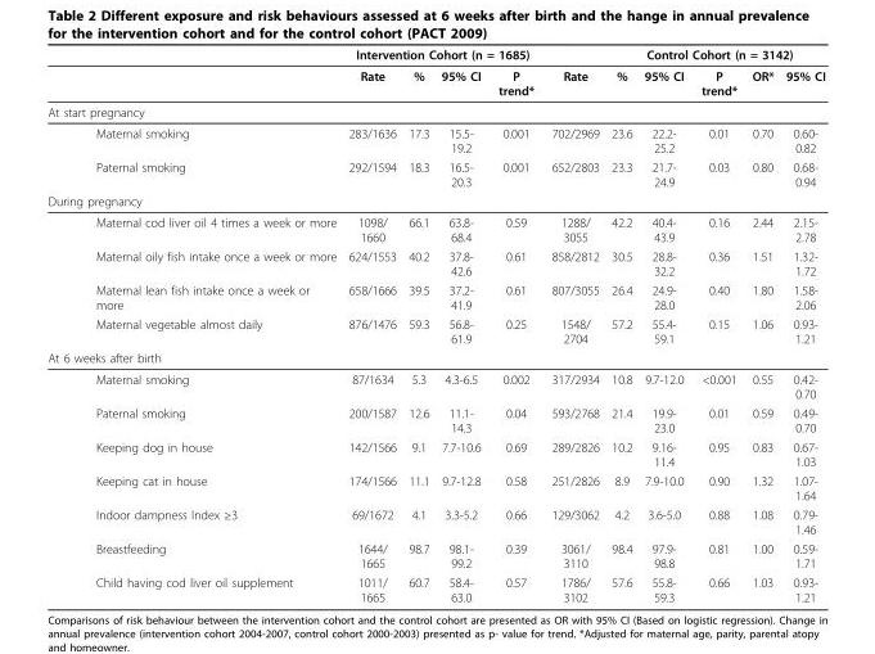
<table><thead><tr><td rowspan="2"></td><td colspan="4">Intervention Cohort (n = 1685)</td><td rowspan="2">Rate</td><td colspan="5">Control Cohort (n = 3142)</td></tr><tr><td>Rate</td><td>%</td><td>95% CI</td><td>P trend*</td><td>%</td><td>95% CI</td><td>P trend*</td><td>OR*</td><td>95% CI</td></tr></thead><tbody><tr><td colspan="11">At start pregnancy</td></tr><tr><td>Maternal smoking</td><td>283/1636</td><td>17.3</td><td>15.5- 19.2</td><td>0.001</td><td>702/2969</td><td>23.6</td><td>22.2- 25.2</td><td>0.01</td><td>0.70</td><td>0.60- 0.82</td></tr><tr><td>Paternal smoking</td><td>292/1594</td><td>18.3</td><td>16.5- 20.3</td><td>0.001</td><td>652/2803</td><td>23.3</td><td>21.7- 24.9</td><td>0.03</td><td>0.80</td><td>0.68- 0.94</td></tr><tr><td colspan="11">During pregnancy</td></tr><tr><td>Maternal cod liver oil 4 times a week or more</td><td>1098/ 1660</td><td>66.1</td><td>63.8- 68.4</td><td>0.59</td><td>1288/ 3055</td><td>42.2</td><td>40.4- 43.9</td><td>0.16</td><td>2.44</td><td>2.15- 2.78</td></tr><tr><td>Maternal oily fish intake once a week or more</td><td>624/1553</td><td>40.2</td><td>37.8- 42.6</td><td>0.61</td><td>858/2812</td><td>30.5</td><td>28.8- 32.2</td><td>0.36</td><td>1.51</td><td>1.32- 1.72</td></tr><tr><td>Maternal lean fish intake once a week or more</td><td>658/1666</td><td>39.5</td><td>37.2- 41.9</td><td>0.61</td><td>807/3055</td><td>26.4</td><td>24.9- 28.0</td><td>0.40</td><td>1.80</td><td>1.58- 2.06</td></tr><tr><td>Maternal vegetable almost daily</td><td>876/1476</td><td>59.3</td><td>56.8- 61.9</td><td>0.25</td><td>1548/ 2704</td><td>57.2</td><td>55.4- 59.1</td><td>0.15</td><td>1.06</td><td>0.93- 1.21</td></tr><tr><td colspan="11">At 6 weeks after birth</td></tr><tr><td>Maternal smoking</td><td>87/1634</td><td>5.3</td><td>4.3-6.5</td><td>0.002</td><td>317/2934</td><td>10.8</td><td>9.7-12.0</td><td>&lt;0.001</td><td>0.55</td><td>0.42- 0.70</td></tr><tr><td>Paternal smoking</td><td>200/1587</td><td>12.6</td><td>11.1- 14.3</td><td>0.04</td><td>593/2768</td><td>21.4</td><td>19.9- 23.0</td><td>0.01</td><td>0.59</td><td>0.49- 0.70</td></tr><tr><td>Keeping dog in house</td><td>142/1566</td><td>9.1</td><td>7.7-10.6</td><td>0.69</td><td>289/2826</td><td>10.2</td><td>9.16- 11.4</td><td>0.95</td><td>0.83</td><td>0.67- 1.03</td></tr><tr><td>Keeping cat in house</td><td>174/1566</td><td>11.1</td><td>9.7-12.8</td><td>0.58</td><td>251/2826</td><td>8.9</td><td>7.9-10.0</td><td>0.90</td><td>1.32</td><td>1.07- 1.64</td></tr><tr><td>Indoor dampness Index ≥3</td><td>69/1672</td><td>4.1</td><td>3.3-5.2</td><td>0.66</td><td>129/3062</td><td>4.2</td><td>3.6-5.0</td><td>0.88</td><td>1.08</td><td>0.79- 1.46</td></tr><tr><td>Breastfeeding</td><td>1644/ 1665</td><td>98.7</td><td>98.1- 99.2</td><td>0.39</td><td>3061/ 3110</td><td>98.4</td><td>97.9- 98.8</td><td>0.81</td><td>1.00</td><td>0.59- 1.71</td></tr><tr><td>Child having cod liver oil supplement</td><td>1011/ 1665</td><td>60.7</td><td>58.4- 63.0</td><td>0.57</td><td>1786/ 3102</td><td>57.6</td><td>55.8- 59.3</td><td>0.66</td><td>1.03</td><td>0.93- 1.21</td></tr></tbody></table>